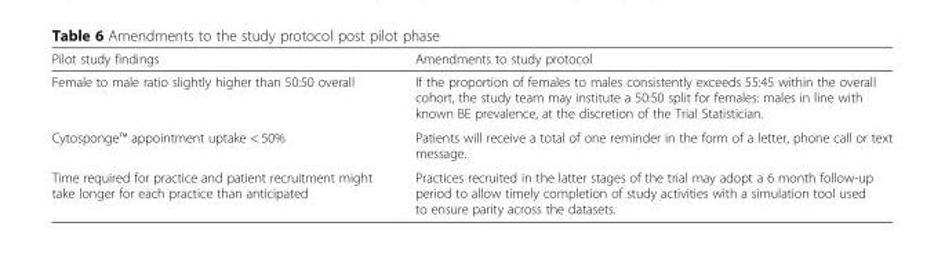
<table><thead><tr><td>Pilot study findings</td><td>Amendments to study protocol</td></tr></thead><tbody><tr><td>Female to male ratio slightly higher than 50:50 overall</td><td>If the proportion of females to males consistently exceeds 55:45 within the overall cohort, the study team may institute a 50:50 split for females: males in line with known BE prevalence, at the discretion of the Trial Statistician.</td></tr><tr><td>Cytosponge™ appointment uptake &lt; 50%</td><td>Patients will receive a total of one reminder in the form of a letter, phone call or text message.</td></tr><tr><td>Time required for practice and patient recruitment might take longer for each practice than anticipated</td><td>Practices recruited in the latter stages of the trial may adopt a 6 month follow-up period to allow timely completion of study activities with a simulation tool used to ensure parity across the datasets.</td></tr></tbody></table>